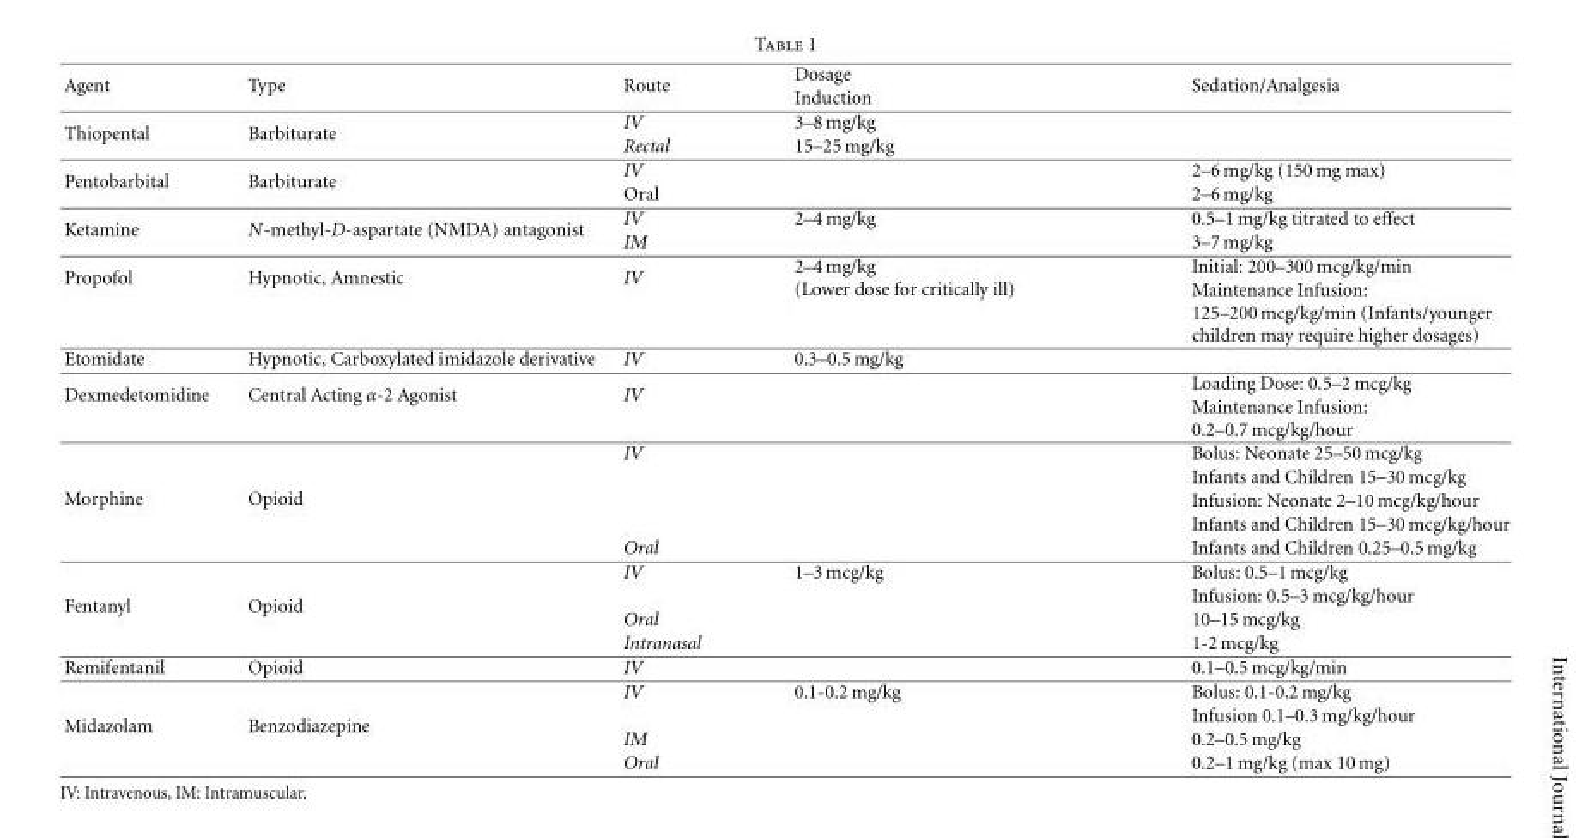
<table><tbody><tr><td rowspan="2">Agent</td><td rowspan="2">Type</td><td rowspan="2">Route</td><td>Dosage</td><td rowspan="2">Sedation/Analgesia</td></tr><tr><td>Induction</td></tr><tr><td rowspan="2">Thiopental</td><td rowspan="2">Barbiturate</td><td>IV</td><td>3–8 mg/kg</td><td></td></tr><tr><td>Rectal</td><td>15–25 mg/kg</td><td></td></tr><tr><td rowspan="2">Pentobarbital</td><td rowspan="2">Barbiturate</td><td>IV</td><td></td><td>2–6 mg/kg (150 mg max)</td></tr><tr><td>Oral</td><td></td><td>2–6 mg/kg</td></tr><tr><td rowspan="2">Ketamine</td><td rowspan="2">N-methyl-D-aspartate (NMDA) antagonist</td><td>IV</td><td>2–4 mg/kg</td><td>0.5–1 mg/kg titrated to effect</td></tr><tr><td>IM</td><td></td><td>3–7 mg/kg</td></tr><tr><td rowspan="2">Propofol</td><td rowspan="2">Hypnotic, Amnestic</td><td rowspan="2">IV</td><td rowspan="2">2–4 mg/kg (Lower dose for critically ill)</td><td>Initial: 200–300 mcg/kg/min</td></tr><tr><td>Maintenance Infusion: 125–200 mcg/kg/min (Infants/younger children may require higher dosages)</td></tr><tr><td>Etomidate</td><td>Hypnotic, Carboxylated imidazole derivative</td><td>IV</td><td>0.3–0.5 mg/kg</td><td></td></tr><tr><td rowspan="2">Dexmedetomidine</td><td rowspan="2">Central Acting α-2 Agonist</td><td rowspan="2">IV</td><td></td><td>Loading Dose: 0.5–2 mcg/kg</td></tr><tr><td></td><td>Maintenance Infusion: 0.2–0.7 mcg/kg/hour</td></tr><tr><td rowspan="5">Morphine</td><td rowspan="5">Opioid</td><td>IV</td><td></td><td>Bolus: Neonate 25–50 mcg/kg</td></tr><tr><td></td><td></td><td>Infants and Children 15–30 mcg/kg</td></tr><tr><td></td><td></td><td>Infusion: Neonate 2–10 mcg/kg/hour</td></tr><tr><td></td><td></td><td>Infants and Children 15–30 mcg/kg/hour</td></tr><tr><td>Oral</td><td></td><td>Infants and Children 0.25–0.5 mg/kg</td></tr><tr><td rowspan="4">Fentanyl</td><td rowspan="4">Opioid</td><td>IV</td><td>1–3 mcg/kg</td><td>Bolus: 0.5–1 mcg/kg</td></tr><tr><td></td><td></td><td>Infusion: 0.5–3 mcg/kg/hour</td></tr><tr><td>Oral</td><td></td><td>10–15 mcg/kg</td></tr><tr><td>Intranasal</td><td></td><td>1-2 mcg/kg</td></tr><tr><td>Remifentanil</td><td>Opioid</td><td>IV</td><td></td><td>0.1–0.5 mcg/kg/min</td></tr><tr><td rowspan="4">Midazolam</td><td rowspan="4">Benzodiazepine</td><td>IV</td><td>0.1-0.2 mg/kg</td><td>Bolus: 0.1-0.2 mg/kg</td></tr><tr><td></td><td></td><td>Infusion 0.1–0.3 mg/kg/hour</td></tr><tr><td>IM</td><td></td><td>0.2–0.5 mg/kg</td></tr><tr><td>Oral</td><td></td><td>0.2–1 mg/kg (max 10 mg)</td></tr></tbody></table>